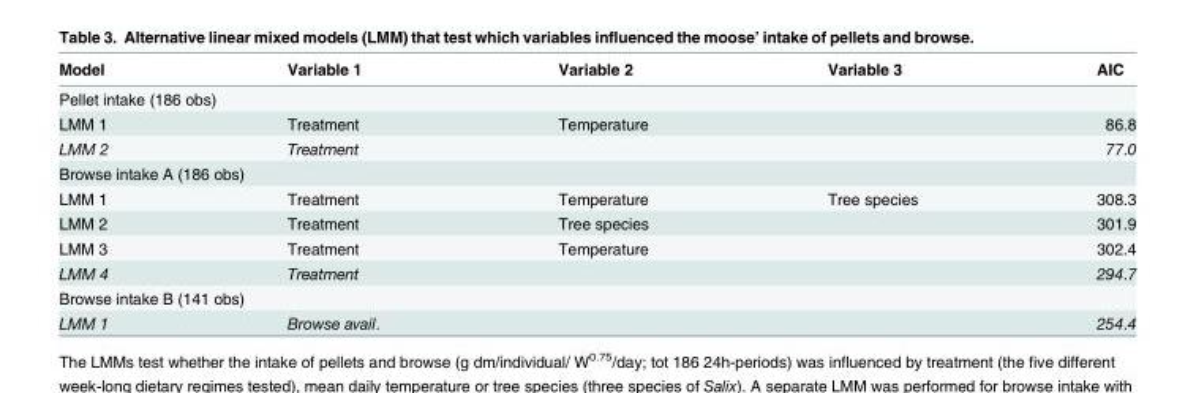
<table><thead><tr><td>Model</td><td>Variable 1</td><td>Variable 2</td><td>Variable 3</td><td>AIC</td></tr></thead><tbody><tr><td colspan="5">Pellet intake (186 obs)</td></tr><tr><td>LMM 1</td><td>Treatment</td><td>Temperature</td><td></td><td>86.8</td></tr><tr><td>LMM 2</td><td>Treatment</td><td></td><td></td><td>77.0</td></tr><tr><td colspan="5">Browse intake A (186 obs)</td></tr><tr><td>LMM 1</td><td>Treatment</td><td>Temperature</td><td>Tree species</td><td>308.3</td></tr><tr><td>LMM 2</td><td>Treatment</td><td>Tree species</td><td></td><td>301.9</td></tr><tr><td>LMM 3</td><td>Treatment</td><td>Temperature</td><td></td><td>302.4</td></tr><tr><td>LMM 4</td><td>Treatment</td><td></td><td></td><td>294.7</td></tr><tr><td colspan="5">Browse intake B (141 obs)</td></tr><tr><td>LMM 1</td><td>Browse avail.</td><td></td><td></td><td>254.4</td></tr></tbody></table>